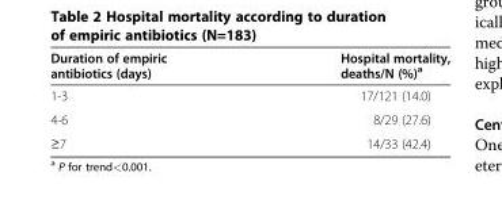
<table><thead><tr><td>Duration of empiric antibiotics (days)</td><td>Hospital mortality, deaths/N (%)<sup>a</sup></td></tr></thead><tbody><tr><td>1-3</td><td>17/121 (14.0)</td></tr><tr><td>4-6</td><td>8/29 (27.6)</td></tr><tr><td>≥7</td><td>14/33 (42.4)</td></tr></tbody></table>